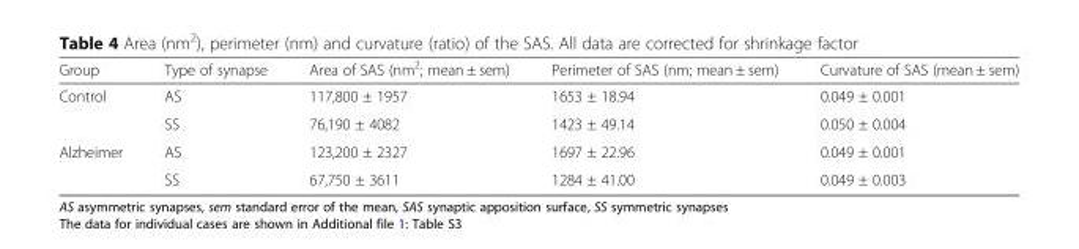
<table><thead><tr><td>Group</td><td>Type of synapse</td><td>Area of SAS (nm<sup>2</sup>; mean ± sem)</td><td>Perimeter of SAS (nm; mean ± sem)</td><td>Curvature of SAS (mean ± sem)</td></tr></thead><tbody><tr><td rowspan="2">Control</td><td>AS</td><td>117,800 ± 1957</td><td>1653 ± 18.94</td><td>0.049 ± 0.001</td></tr><tr><td>SS</td><td>76,190 ± 4082</td><td>1423 ± 49.14</td><td>0.050 ± 0.004</td></tr><tr><td rowspan="2">Alzheimer</td><td>AS</td><td>123,200 ± 2327</td><td>1697 ± 22.96</td><td>0.049 ± 0.001</td></tr><tr><td>SS</td><td>67,750 ± 3611</td><td>1284 ± 41.00</td><td>0.049 ± 0.003</td></tr></tbody></table>